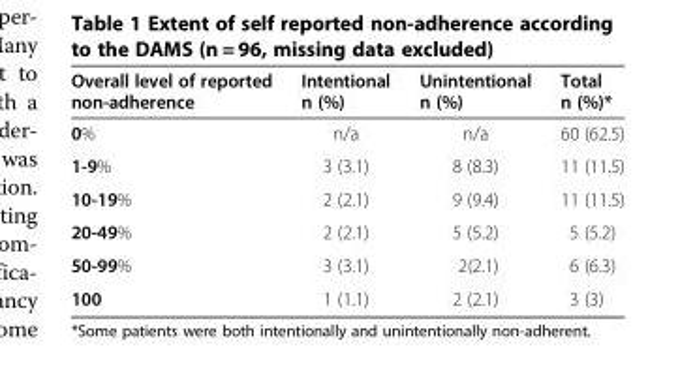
<table><thead><tr><td>Overall level of reported non-adherence</td><td>Intentional n (%)</td><td>Unintentional n (%)</td><td>Total n (%)*</td></tr></thead><tbody><tr><td>0%</td><td>n/a</td><td>n/a</td><td>60 (62.5)</td></tr><tr><td>1-9%</td><td>3 (3.1)</td><td>8 (8.3)</td><td>11 (11.5)</td></tr><tr><td>10-19%</td><td>2 (2.1)</td><td>9 (9.4)</td><td>11 (11.5)</td></tr><tr><td>20-49%</td><td>2 (2.1)</td><td>5 (5.2)</td><td>5 (5.2)</td></tr><tr><td>50-99%</td><td>3 (3.1)</td><td>2(2.1)</td><td>6 (6.3)</td></tr><tr><td>100</td><td>1 (1.1)</td><td>2 (2.1)</td><td>3 (3)</td></tr></tbody></table>